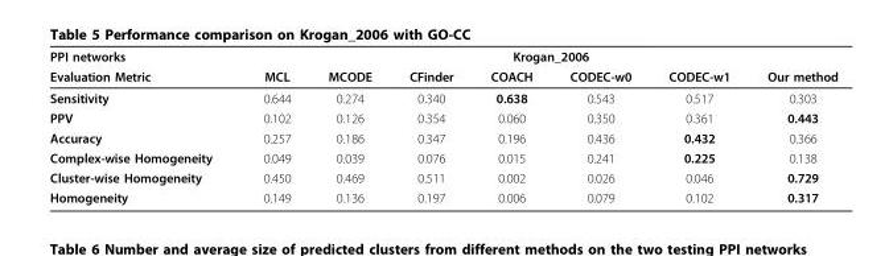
<table><thead><tr><td rowspan="2">PPI networks Evaluation Metric</td><td colspan="7">Krogan_2006</td></tr><tr><td>MCL</td><td>MCODE</td><td>CFinder</td><td>COACH</td><td>CODEC-w0</td><td>CODEC-w1</td><td>Our method</td></tr></thead><tbody><tr><td>Sensitivity</td><td>0.644</td><td>0.274</td><td>0.340</td><td>0.638</td><td>0.543</td><td>0.517</td><td>0.303</td></tr><tr><td>PPV</td><td>0.102</td><td>0.126</td><td>0.354</td><td>0.060</td><td>0.350</td><td>0.361</td><td>0.443</td></tr><tr><td>Accuracy</td><td>0.257</td><td>0.186</td><td>0.347</td><td>0.196</td><td>0.436</td><td>0.432</td><td>0.366</td></tr><tr><td>Complex-wise Homogeneity</td><td>0.049</td><td>0.039</td><td>0.076</td><td>0.015</td><td>0.241</td><td>0.225</td><td>0.138</td></tr><tr><td>Cluster-wise Homogeneity</td><td>0.450</td><td>0.469</td><td>0.511</td><td>0.002</td><td>0.026</td><td>0.046</td><td>0.729</td></tr><tr><td>Homogeneity</td><td>0.149</td><td>0.136</td><td>0.197</td><td>0.006</td><td>0.079</td><td>0.102</td><td>0.317</td></tr></tbody></table>